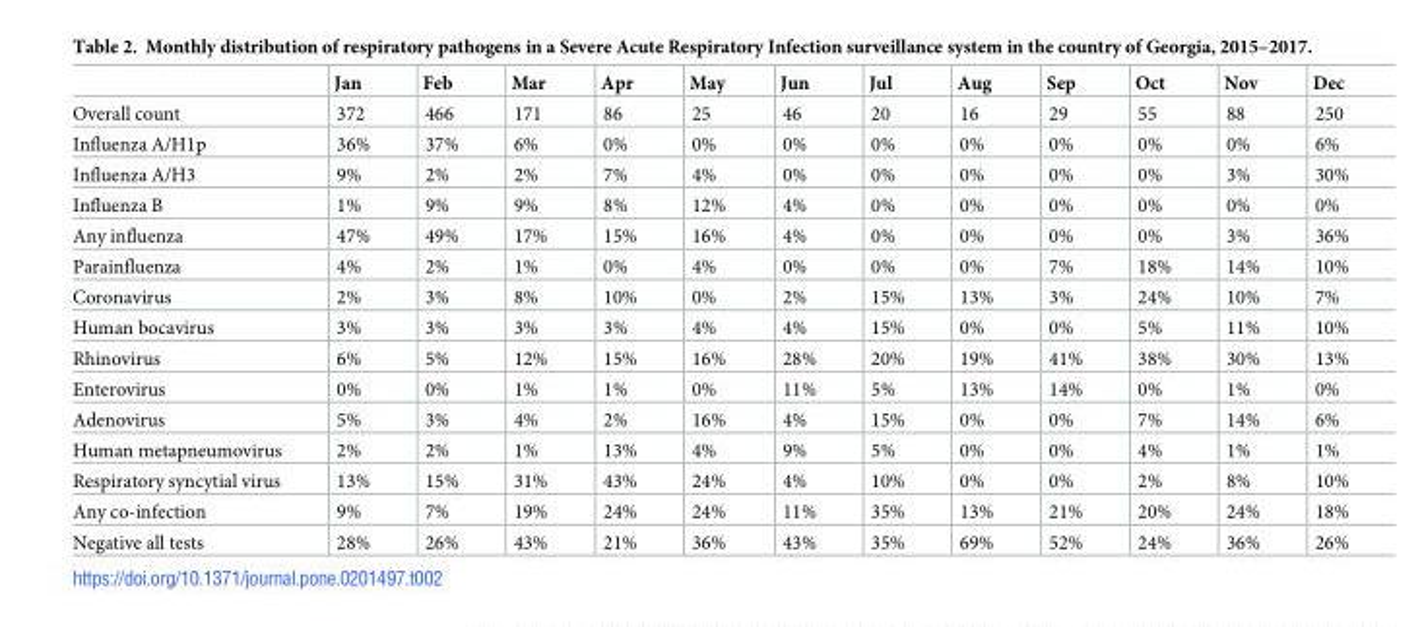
<table><thead><tr><td></td><td>Jan</td><td>Feb</td><td>Mar</td><td>Apr</td><td>May</td><td>Jun</td><td>Jul</td><td>Aug</td><td>Sep</td><td>Oct</td><td>Nov</td><td>Dec</td></tr></thead><tbody><tr><td>Overall count</td><td>372</td><td>466</td><td>171</td><td>86</td><td>25</td><td>46</td><td>20</td><td>16</td><td>29</td><td>55</td><td>88</td><td>250</td></tr><tr><td>Influenza A/H1p</td><td>36%</td><td>37%</td><td>6%</td><td>0%</td><td>0%</td><td>0%</td><td>0%</td><td>0%</td><td>0%</td><td>0%</td><td>0%</td><td>6%</td></tr><tr><td>Influenza A/H3</td><td>9%</td><td>2%</td><td>2%</td><td>7%</td><td>4%</td><td>0%</td><td>0%</td><td>0%</td><td>0%</td><td>0%</td><td>3%</td><td>30%</td></tr><tr><td>Influenza B</td><td>1%</td><td>9%</td><td>9%</td><td>8%</td><td>12%</td><td>4%</td><td>0%</td><td>0%</td><td>0%</td><td>0%</td><td>0%</td><td>0%</td></tr><tr><td>Any influenza</td><td>47%</td><td>49%</td><td>17%</td><td>15%</td><td>16%</td><td>4%</td><td>0%</td><td>0%</td><td>0%</td><td>0%</td><td>3%</td><td>36%</td></tr><tr><td>Parainfluenza</td><td>4%</td><td>2%</td><td>1%</td><td>0%</td><td>4%</td><td>0%</td><td>0%</td><td>0%</td><td>7%</td><td>18%</td><td>14%</td><td>10%</td></tr><tr><td>Coronavirus</td><td>2%</td><td>3%</td><td>8%</td><td>10%</td><td>0%</td><td>2%</td><td>15%</td><td>13%</td><td>3%</td><td>24%</td><td>10%</td><td>7%</td></tr><tr><td>Human bocavirus</td><td>3%</td><td>3%</td><td>3%</td><td>3%</td><td>4%</td><td>4%</td><td>15%</td><td>0%</td><td>0%</td><td>5%</td><td>11%</td><td>10%</td></tr><tr><td>Rhinovirus</td><td>6%</td><td>5%</td><td>12%</td><td>15%</td><td>16%</td><td>28%</td><td>20%</td><td>19%</td><td>41%</td><td>38%</td><td>30%</td><td>13%</td></tr><tr><td>Enterovirus</td><td>0%</td><td>0%</td><td>1%</td><td>1%</td><td>0%</td><td>11%</td><td>5%</td><td>13%</td><td>14%</td><td>0%</td><td>1%</td><td>0%</td></tr><tr><td>Adenovirus</td><td>5%</td><td>3%</td><td>4%</td><td>2%</td><td>16%</td><td>4%</td><td>15%</td><td>0%</td><td>0%</td><td>7%</td><td>14%</td><td>6%</td></tr><tr><td>Human metapneumovirus</td><td>2%</td><td>2%</td><td>1%</td><td>13%</td><td>4%</td><td>9%</td><td>5%</td><td>0%</td><td>0%</td><td>4%</td><td>1%</td><td>1%</td></tr><tr><td>Respiratory syncytial virus</td><td>13%</td><td>15%</td><td>31%</td><td>43%</td><td>24%</td><td>4%</td><td>10%</td><td>0%</td><td>0%</td><td>2%</td><td>8%</td><td>10%</td></tr><tr><td>Any co-infection</td><td>9%</td><td>7%</td><td>19%</td><td>24%</td><td>24%</td><td>11%</td><td>35%</td><td>13%</td><td>21%</td><td>20%</td><td>24%</td><td>18%</td></tr><tr><td>Negative all tests</td><td>28%</td><td>26%</td><td>43%</td><td>21%</td><td>36%</td><td>43%</td><td>35%</td><td>69%</td><td>52%</td><td>24%</td><td>36%</td><td>26%</td></tr></tbody></table>